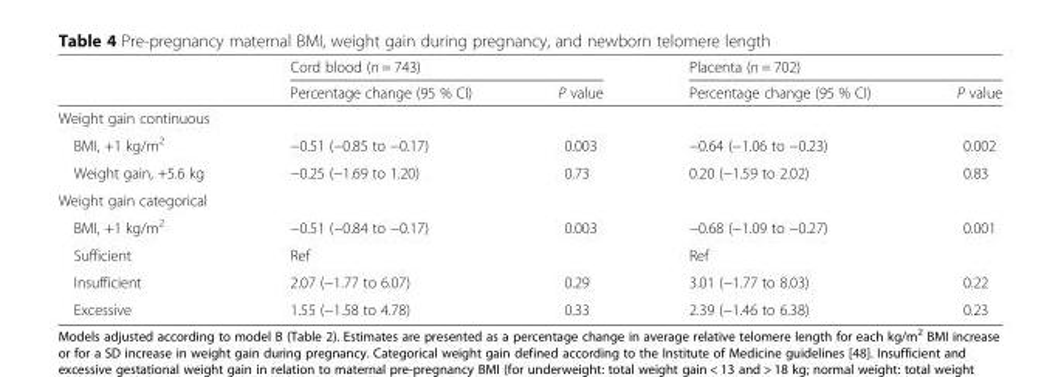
<table><thead><tr><td rowspan="2"></td><td colspan="2">Cord blood (n = 743)</td><td colspan="2">Placenta (n = 702)</td></tr><tr><td>Percentage change (95 % CI)</td><td>P value</td><td>Percentage change (95 % CI)</td><td>P value</td></tr></thead><tbody><tr><td colspan="5">Weight gain continuous</td></tr><tr><td>BMI, +1 kg/m<sup>2</sup></td><td>−0.51 (−0.85 to −0.17)</td><td>0.003</td><td>−0.64 (−1.06 to −0.23)</td><td>0.002</td></tr><tr><td>Weight gain, +5.6 kg</td><td>−0.25 (−1.69 to 1.20)</td><td>0.73</td><td>0.20 (−1.59 to 2.02)</td><td>0.83</td></tr><tr><td colspan="5">Weight gain categorical</td></tr><tr><td>BMI, +1 kg/m<sup>2</sup></td><td>−0.51 (−0.84 to −0.17)</td><td>0.003</td><td>−0.68 (−1.09 to −0.27)</td><td>0.001</td></tr><tr><td>Sufficient</td><td>Ref</td><td></td><td>Ref</td><td></td></tr><tr><td>Insufficient</td><td>2.07 (−1.77 to 6.07)</td><td>0.29</td><td>3.01 (−1.77 to 8.03)</td><td>0.22</td></tr><tr><td>Excessive</td><td>1.55 (−1.58 to 4.78)</td><td>0.33</td><td>2.39 (−1.46 to 6.38)</td><td>0.23</td></tr></tbody></table>